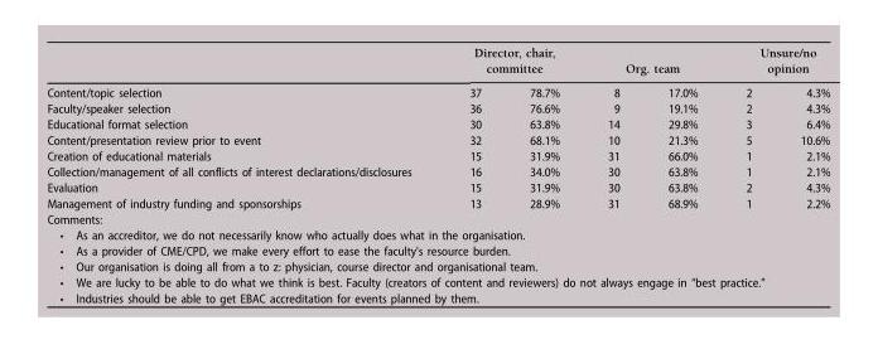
<table><thead><tr><td rowspan="2">Content/topic selection</td><td colspan="2">Director, chair, committee</td><td colspan="2">Org. team</td><td colspan="2">Unsure/no opinion</td></tr><tr><td>37</td><td>78.7%</td><td>8</td><td>17.0%</td><td>2</td><td>4.3%</td></tr></thead><tbody><tr><td>Faculty/speaker selection</td><td>36</td><td>76.6%</td><td>9</td><td>19.1%</td><td>2</td><td>4.3%</td></tr><tr><td>Educational format selection</td><td>30</td><td>63.8%</td><td>14</td><td>29.8%</td><td>3</td><td>6.4%</td></tr><tr><td>Content/presentation review prior to event</td><td>32</td><td>68.1%</td><td>10</td><td>21.3%</td><td>5</td><td>10.6%</td></tr><tr><td>Creation of educational materials</td><td>15</td><td>31.9%</td><td>31</td><td>66.0%</td><td>1</td><td>2.1%</td></tr><tr><td>Collection/management of all conflicts of interest declarations/disclosures</td><td>16</td><td>34.0%</td><td>30</td><td>63.8%</td><td>1</td><td>2.1%</td></tr><tr><td>Evaluation</td><td>15</td><td>31.9%</td><td>30</td><td>63.8%</td><td>2</td><td>4.3%</td></tr><tr><td>Management of industry funding and sponsorships</td><td>13</td><td>28.9%</td><td>31</td><td>68.9%</td><td>1</td><td>2.2%</td></tr><tr><td colspan="7">Comments: • As an accreditor, we do not necessarily know who actually does what in the organisation. • As a provider of CME/CPD, we make every effort to ease the faculty&#x27;s resource burden. • Our organisation is doing all from a to z: physician, course director and organisational team. • We are lucky to be able to do what we think is best. Faculty (creators of content and reviewers) do not always engage in “best practice.” • Industries should be able to get EBAC accreditation for events planned by them.</td></tr></tbody></table>